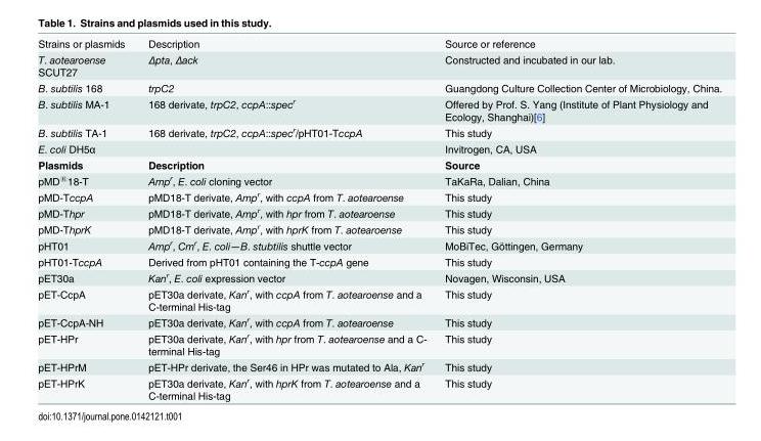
<table><tbody><tr><td>Strains or plasmids</td><td>Description</td><td>Source or reference</td></tr><tr><td>T. aotearoense SCUT27</td><td>Δpta, Δack</td><td>Constructed and incubated in our lab.</td></tr><tr><td>B. subtilis 168</td><td>trpC2</td><td>Guangdong Culture Collection Center of Microbiology, China.</td></tr><tr><td>B. subtilis MA-1</td><td>168 derivate, trpC2, ccpA::spec<sup>r</sup></td><td>Offered by Prof. S. Yang (Institute of Plant Physiology and Ecology, Shanghai)[6]</td></tr><tr><td>B. subtilis TA-1</td><td>168 derivate, trpC2, ccpA::spec<sup>r</sup>/pHT01-TccpA</td><td>This study</td></tr><tr><td>E. coli DH5α</td><td></td><td>Invitrogen, CA, USA</td></tr><tr><td>Plasmids</td><td>Description</td><td>Source</td></tr><tr><td>pMD<sup>®</sup>18-T</td><td>Amp<sup>r</sup>, E. coli cloning vector</td><td>TaKaRa, Dalian, China</td></tr><tr><td>pMD-TccpA</td><td>pMD18-T derivate, Amp<sup>r</sup>, with ccpA from T. aotearoense</td><td>This study</td></tr><tr><td>pMD-Thpr</td><td>pMD18-T derivate, Amp<sup>r</sup>, with hpr from T. aotearoense</td><td>This study</td></tr><tr><td>pMD-ThprK</td><td>pMD18-T derivate, Amp<sup>r</sup>, with hprK from T. aotearoense</td><td>This study</td></tr><tr><td>pHT01</td><td>Amp<sup>r</sup>, Cm<sup>r</sup>, E. coli—B. stubtilis shuttle vector</td><td>MoBiTec, Göttingen, Germany</td></tr><tr><td>pHT01-TccpA</td><td>Derived from pHT01 containing the T-ccpA gene</td><td>This study</td></tr><tr><td>pET30a</td><td>Kan<sup>r</sup>, E. coli expression vector</td><td>Novagen, Wisconsin, USA</td></tr><tr><td>pET-CcpA</td><td>pET30a derivate, Kan<sup>r</sup>, with ccpA from T. aotearoense and a C-terminal His-tag</td><td>This study</td></tr><tr><td>pET-CcpA-NH</td><td>pET30a derivate, Kan<sup>r</sup>, with ccpA from T. aotearoense</td><td>This study</td></tr><tr><td>pET-HPr</td><td>pET30a derivate, Kan<sup>r</sup>, with hpr from T. aotearoense and a C- terminal His-tag</td><td>This study</td></tr><tr><td>pET-HPrM</td><td>pET-HPr derivate, the Ser46 in HPr was mutated to Ala, Kan<sup>r</sup></td><td>This study</td></tr><tr><td>pET-HPrK</td><td>pET30a derivate, Kan<sup>r</sup>, with hprK from T. aotearoense and a C-terminal His-tag</td><td>This study</td></tr></tbody></table>